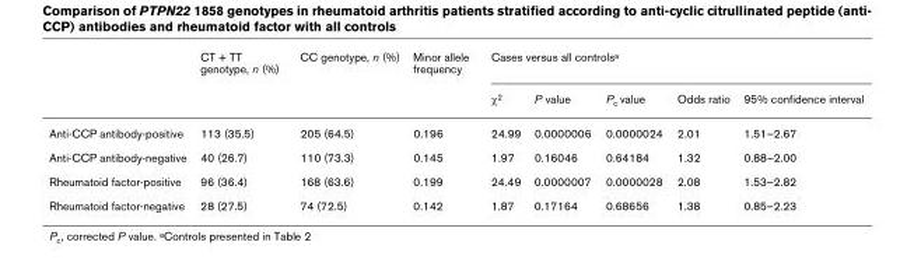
<table><thead><tr><td rowspan="2"></td><td rowspan="2">CT + TT genotype, n (%)</td><td rowspan="2">CC genotype, n (%)</td><td rowspan="2">Minor allele frequency</td><td colspan="5">Cases versus all controls<sup>a</sup></td></tr><tr><td>χ<sup>2</sup></td><td>P value</td><td>P<sub>c</sub> value</td><td>Odds ratio</td><td>95% confidence interval</td></tr></thead><tbody><tr><td>Anti-CCP antibody-positive</td><td>113 (35.5)</td><td>205 (64.5)</td><td>0.196</td><td>24.99</td><td>0.0000006</td><td>0.0000024</td><td>2.01</td><td>1.51–2.67</td></tr><tr><td>Anti-CCP antibody-negative</td><td>40 (26.7)</td><td>110 (73.3)</td><td>0.145</td><td>1.97</td><td>0.16046</td><td>0.64184</td><td>1.32</td><td>0.88–2.00</td></tr><tr><td>Rheumatoid factor-positive</td><td>96 (36.4)</td><td>168 (63.6)</td><td>0.199</td><td>24.49</td><td>0.0000007</td><td>0.0000028</td><td>2.08</td><td>1.53–2.82</td></tr><tr><td>Rheumatoid factor-negative</td><td>28 (27.5)</td><td>74 (72.5)</td><td>0.142</td><td>1.87</td><td>0.17164</td><td>0.68656</td><td>1.38</td><td>0.85–2.23</td></tr></tbody></table>